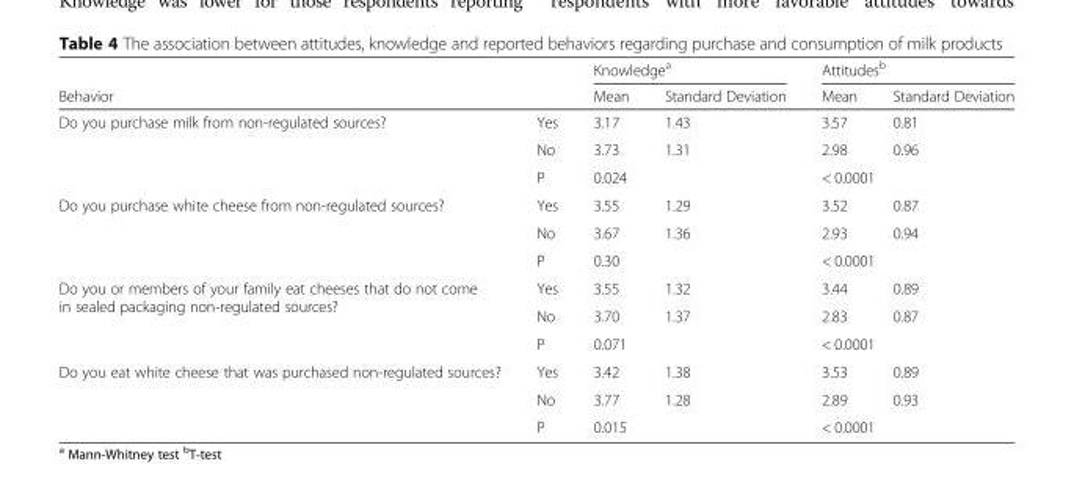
<table><thead><tr><td rowspan="2">Behavior</td><td rowspan="2"></td><td colspan="2">Knowledge<sup>a</sup></td><td colspan="2">Attitudes<sup>b</sup></td></tr><tr><td>Mean</td><td>Standard Deviation</td><td>Mean</td><td>Standard Deviation</td></tr></thead><tbody><tr><td rowspan="3">Do you purchase milk from non-regulated sources?</td><td>Yes</td><td>3.17</td><td>1.43</td><td>3.57</td><td>0.81</td></tr><tr><td>No</td><td>3.73</td><td>1.31</td><td>2.98</td><td>0.96</td></tr><tr><td>P</td><td colspan="2">0.024</td><td colspan="2">&lt; 0.0001</td></tr><tr><td rowspan="3">Do you purchase white cheese from non-regulated sources?</td><td>Yes</td><td>3.55</td><td>1.29</td><td>3.52</td><td>0.87</td></tr><tr><td>No</td><td>3.67</td><td>1.36</td><td>2.93</td><td>0.94</td></tr><tr><td>P</td><td colspan="2">0.30</td><td colspan="2">&lt; 0.0001</td></tr><tr><td rowspan="3">Do you or members of your family eat cheeses that do not come in sealed packaging non-regulated sources?</td><td>Yes</td><td>3.55</td><td>1.32</td><td>3.44</td><td>0.89</td></tr><tr><td>No</td><td>3.70</td><td>1.37</td><td>2.83</td><td>0.87</td></tr><tr><td>P</td><td colspan="2">0.071</td><td colspan="2">&lt; 0.0001</td></tr><tr><td rowspan="3">Do you eat white cheese that was purchased non-regulated sources?</td><td>Yes</td><td>3.42</td><td>1.38</td><td>3.53</td><td>0.89</td></tr><tr><td>No</td><td>3.77</td><td>1.28</td><td>2.89</td><td>0.93</td></tr><tr><td>P</td><td colspan="2">0.015</td><td colspan="2">&lt; 0.0001</td></tr></tbody></table>